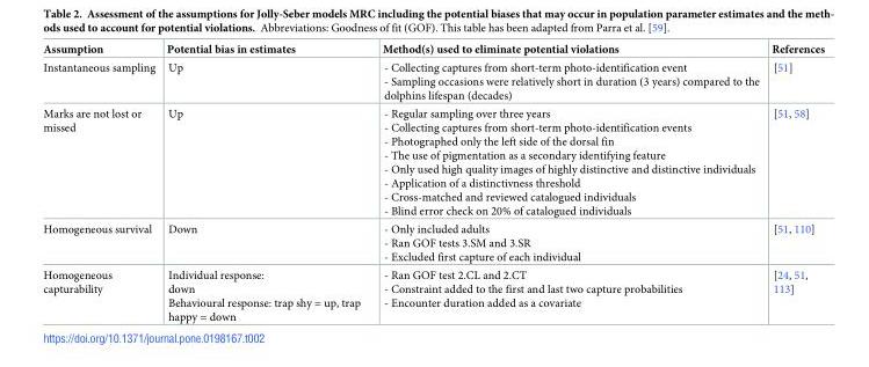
<table><thead><tr><td>Assumption</td><td>Potential bias in estimates</td><td>Method(s) used to eliminate potential violations</td><td>References</td></tr></thead><tbody><tr><td>Instantaneous sampling</td><td>Up</td><td>- Collecting captures from short-term photo-identification event - Sampling occasions were relatively short in duration (3 years) compared to the dolphins lifespan (decades)</td><td>[51]</td></tr><tr><td>Marks are not lost or missed</td><td>Up</td><td>- Regular sampling over three years - Collecting captures from short-term photo-identification events - Photographed only the left side of the dorsal fin - The use of pigmentation as a secondary identifying feature - Only used high quality images of highly distinctive and distinctive individuals - Application of a distinctivness threshold - Cross-matched and reviewed catalogued individuals - Blind error check on 20% of catalogued individuals</td><td>[51, 58]</td></tr><tr><td>Homogeneous survival</td><td>Down</td><td>- Only included adults - Ran GOF tests 3.SM and 3.SR - Excluded first capture of each individual</td><td>[51, 110]</td></tr><tr><td>Homogeneous capturability</td><td>Individual response: down Behavioural response: trap shy = up, trap happy = down</td><td>- Ran GOF test 2.CL and 2.CT - Constraint added to the first and last two capture probabilities - Encounter duration added as a covariate</td><td>[24, 51, 113]</td></tr></tbody></table>